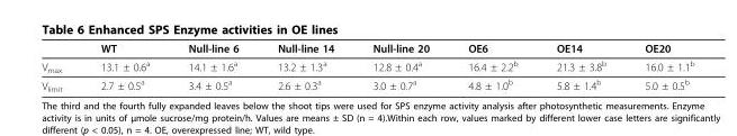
<table><thead><tr><td></td><td>WT</td><td>Null-line 6</td><td>Null-line 14</td><td>Null-line 20</td><td>OE6</td><td>OE14</td><td>OE20</td></tr></thead><tbody><tr><td>V<sub>max</sub></td><td>13.1 ± 0.6<sup>a</sup></td><td>14.1 ± 1.6<sup>a</sup></td><td>13.2 ± 1.3<sup>a</sup></td><td>12.8 ± 0.4<sup>a</sup></td><td>16.4 ± 2.2<sup>b</sup></td><td>21.3 ± 3.8<sup>b</sup></td><td>16.0 ± 1.1<sup>b</sup></td></tr><tr><td>V<sub>limit</sub></td><td>2.7 ± 0.5<sup>a</sup></td><td>3.4 ± 0.5<sup>a</sup></td><td>2.6 ± 0.3<sup>a</sup></td><td>3.0 ± 0.7<sup>a</sup></td><td>4.8 ± 1.0<sup>b</sup></td><td>5.8 ± 1.4<sup>b</sup></td><td>5.0 ± 0.5<sup>b</sup></td></tr></tbody></table>